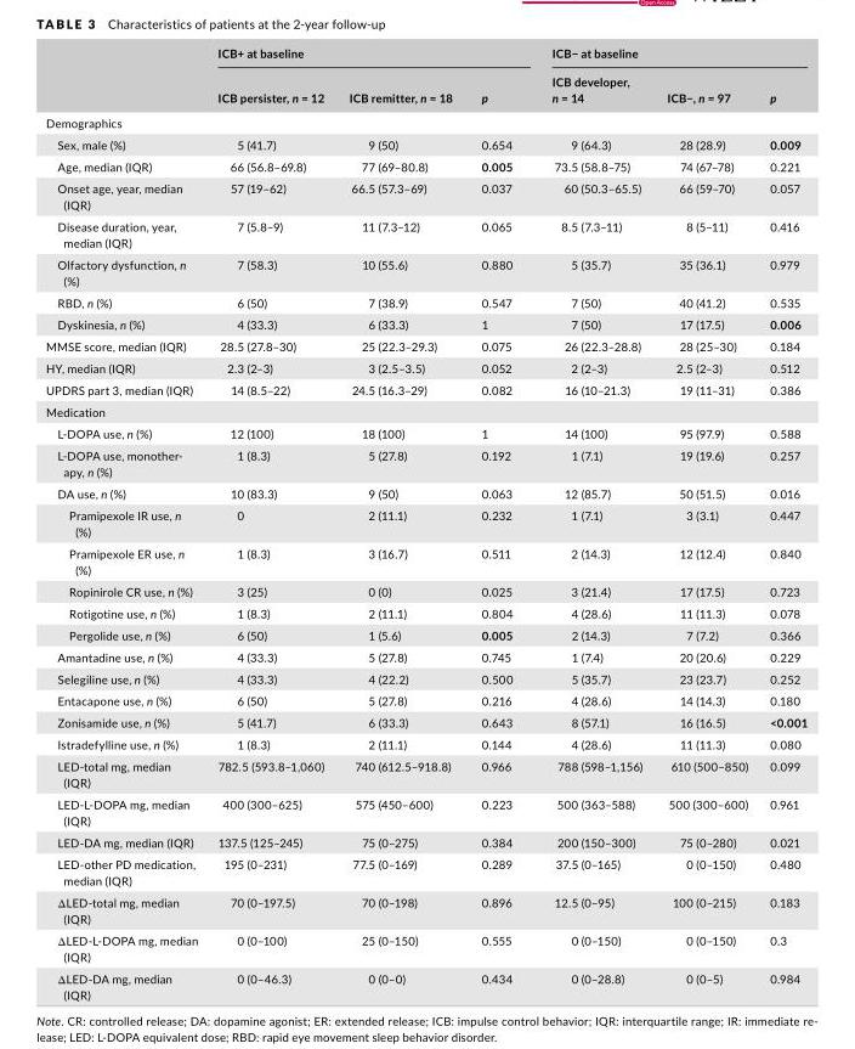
<table><thead><tr><td rowspan="2"></td><td colspan="3">ICB+ at baseline</td><td colspan="3">ICB− at baseline</td></tr><tr><td>ICB persister, n = 12</td><td>ICB remitter, n = 18</td><td>p</td><td>ICB developer, n = 14</td><td>ICB−, n = 97</td><td>p</td></tr></thead><tbody><tr><td colspan="7">Demographics</td></tr><tr><td>Sex, male (%)</td><td>5 (41.7)</td><td>9 (50)</td><td>0.654</td><td>9 (64.3)</td><td>28 (28.9)</td><td>0.009</td></tr><tr><td>Age, median (IQR)</td><td>66 (56.8–69.8)</td><td>77 (69–80.8)</td><td>0.005</td><td>73.5 (58.8–75)</td><td>74 (67–78)</td><td>0.221</td></tr><tr><td>Onset age, year, median (IQR)</td><td>57 (19–62)</td><td>66.5 (57.3–69)</td><td>0.037</td><td>60 (50.3–65.5)</td><td>66 (59–70)</td><td>0.057</td></tr><tr><td>Disease duration, year, median (IQR)</td><td>7 (5.8–9)</td><td>11 (7.3–12)</td><td>0.065</td><td>8.5 (7.3–11)</td><td>8 (5–11)</td><td>0.416</td></tr><tr><td>Olfactory dysfunction, n (%)</td><td>7 (58.3)</td><td>10 (55.6)</td><td>0.880</td><td>5 (35.7)</td><td>35 (36.1)</td><td>0.979</td></tr><tr><td>RBD, n (%)</td><td>6 (50)</td><td>7 (38.9)</td><td>0.547</td><td>7 (50)</td><td>40 (41.2)</td><td>0.535</td></tr><tr><td>Dyskinesia, n (%)</td><td>4 (33.3)</td><td>6 (33.3)</td><td>1</td><td>7 (50)</td><td>17 (17.5)</td><td>0.006</td></tr><tr><td>MMSE score, median (IQR)</td><td>28.5 (27.8–30)</td><td>25 (22.3–29.3)</td><td>0.075</td><td>26 (22.3–28.8)</td><td>28 (25–30)</td><td>0.184</td></tr><tr><td>HY, median (IQR)</td><td>2.3 (2–3)</td><td>3 (2.5–3.5)</td><td>0.052</td><td>2 (2–3)</td><td>2.5 (2–3)</td><td>0.512</td></tr><tr><td>UPDRS part 3, median (IQR)</td><td>14 (8.5–22)</td><td>24.5 (16.3–29)</td><td>0.082</td><td>16 (10–21.3)</td><td>19 (11–31)</td><td>0.386</td></tr><tr><td colspan="7">Medication</td></tr><tr><td>L- DOPA use, n (%)</td><td>12 (100)</td><td>18 (100)</td><td>1</td><td>14 (100)</td><td>95 (97.9)</td><td>0.588</td></tr><tr><td>L- DOPA use, monother- apy, n (%)</td><td>1 (8.3)</td><td>5 (27.8)</td><td>0.192</td><td>1 (7.1)</td><td>19 (19.6)</td><td>0.257</td></tr><tr><td>DA use, n (%)</td><td>10 (83.3)</td><td>9 (50)</td><td>0.063</td><td>12 (85.7)</td><td>50 (51.5)</td><td>0.016</td></tr><tr><td>Pramipexole IR use, n (%)</td><td>0</td><td>2 (11.1)</td><td>0.232</td><td>1 (7.1)</td><td>3 (3.1)</td><td>0.447</td></tr><tr><td>Pramipexole ER use, n (%)</td><td>1 (8.3)</td><td>3 (16.7)</td><td>0.511</td><td>2 (14.3)</td><td>12 (12.4)</td><td>0.840</td></tr><tr><td>Ropinirole CR use, n (%)</td><td>3 (25)</td><td>0 (0)</td><td>0.025</td><td>3 (21.4)</td><td>17 (17.5)</td><td>0.723</td></tr><tr><td>Rotigotine use, n (%)</td><td>1 (8.3)</td><td>2 (11.1)</td><td>0.804</td><td>4 (28.6)</td><td>11 (11.3)</td><td>0.078</td></tr><tr><td>Pergolide use, n (%)</td><td>6 (50)</td><td>1 (5.6)</td><td>0.005</td><td>2 (14.3)</td><td>7 (7.2)</td><td>0.366</td></tr><tr><td>Amantadine use, n (%)</td><td>4 (33.3)</td><td>5 (27.8)</td><td>0.745</td><td>1 (7.4)</td><td>20 (20.6)</td><td>0.229</td></tr><tr><td>Selegiline use, n (%)</td><td>4 (33.3)</td><td>4 (22.2)</td><td>0.500</td><td>5 (35.7)</td><td>23 (23.7)</td><td>0.252</td></tr><tr><td>Entacapone use, n (%)</td><td>6 (50)</td><td>5 (27.8)</td><td>0.216</td><td>4 (28.6)</td><td>14 (14.3)</td><td>0.180</td></tr><tr><td>Zonisamide use, n (%)</td><td>5 (41.7)</td><td>6 (33.3)</td><td>0.643</td><td>8 (57.1)</td><td>16 (16.5)</td><td>&lt;0.001</td></tr><tr><td>Istradefylline use, n (%)</td><td>1 (8.3)</td><td>2 (11.1)</td><td>0.144</td><td>4 (28.6)</td><td>11 (11.3)</td><td>0.080</td></tr><tr><td>LED- total mg, median (IQR)</td><td>782.5 (593.8–1,060)</td><td>740 (612.5–918.8)</td><td>0.966</td><td>788 (598–1,156)</td><td>610 (500–850)</td><td>0.099</td></tr><tr><td>LED- L- DOPA mg, median (IQR)</td><td>400 (300–625)</td><td>575 (450–600)</td><td>0.223</td><td>500 (363–588)</td><td>500 (300–600)</td><td>0.961</td></tr><tr><td>LED- DA mg, median (IQR)</td><td>137.5 (125–245)</td><td>75 (0–275)</td><td>0.384</td><td>200 (150–300)</td><td>75 (0–280)</td><td>0.021</td></tr><tr><td>LED- other PD medication, median (IQR)</td><td>195 (0–231)</td><td>77.5 (0–169)</td><td>0.289</td><td>37.5 (0–165)</td><td>0 (0–150)</td><td>0.480</td></tr><tr><td>ΔLED- total mg, median (IQR)</td><td>70 (0–197.5)</td><td>70 (0–198)</td><td>0.896</td><td>12.5 (0–95)</td><td>100 (0–215)</td><td>0.183</td></tr><tr><td>ΔLED- L- DOPA mg, median (IQR)</td><td>0 (0–100)</td><td>25 (0–150)</td><td>0.555</td><td>0 (0–150)</td><td>0 (0–150)</td><td>0.3</td></tr><tr><td>ΔLED- DA mg, median (IQR)</td><td>0 (0–46.3)</td><td>0 (0–0)</td><td>0.434</td><td>0 (0–28.8)</td><td>0 (0–5)</td><td>0.984</td></tr></tbody></table>